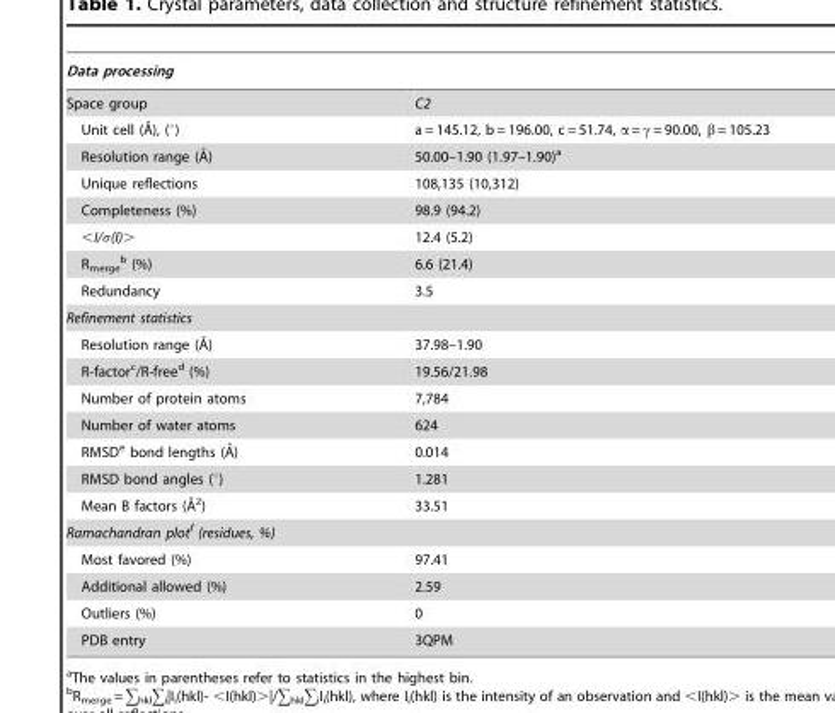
<table><thead><tr><td>Data processing</td><td></td></tr></thead><tbody><tr><td>Space group</td><td>C2</td></tr><tr><td>Unit cell (A˚), (u)</td><td>a = 145.12, b = 196.00, c = 51.74, α = γ = 90.00, β = 105.23</td></tr><tr><td>Resolution range (A˚)</td><td>50.00–1.90 (1.97–1.90)<sup>a</sup></td></tr><tr><td>Unique reflections</td><td>108,135 (10,312)</td></tr><tr><td>Completeness (%)</td><td>98.9 (94.2)</td></tr><tr><td>&lt;I/σ(I)&gt;</td><td>12.4 (5.2)</td></tr><tr><td>R<sub>merge</sub> b (%)</td><td>6.6 (21.4)</td></tr><tr><td>Redundancy</td><td>3.5</td></tr><tr><td colspan="2">Refinement statistics</td></tr><tr><td>Resolution range (A˚)</td><td>37.98–1.90</td></tr><tr><td>R-factor<sup>c</sup>/R-free<sup>d</sup> (%)</td><td>19.56/21.98</td></tr><tr><td>Number of protein atoms</td><td>7,784</td></tr><tr><td>Number of water atoms</td><td>624</td></tr><tr><td>RMSDe bond lengths (A˚)</td><td>0.014</td></tr><tr><td>RMSD bond angles (°)</td><td>1.281</td></tr><tr><td>Mean B factors (A˚2)</td><td>33.51</td></tr><tr><td colspan="2">Ramachandran plotf (residues, %)</td></tr><tr><td>Most favored (%)</td><td>97.41</td></tr><tr><td>Additional allowed (%)</td><td>2.59</td></tr><tr><td>Outliers (%)</td><td>0</td></tr><tr><td>PDB entry</td><td>3QPM</td></tr></tbody></table>